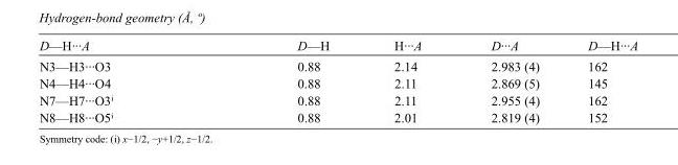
<table><tbody><tr><td>D—H···A</td><td>D—H</td><td>H···A</td><td>D···A</td><td>D—H···A</td></tr><tr><td>N3—H3···O3</td><td>0.88</td><td>2.14</td><td>2.983 (4)</td><td>162</td></tr><tr><td>N4—H4···O4</td><td>0.88</td><td>2.11</td><td>2.869 (5)</td><td>145</td></tr><tr><td>N7—H7···O3<sup>i</sup></td><td>0.88</td><td>2.11</td><td>2.955 (4)</td><td>162</td></tr><tr><td>N8—H8···O5<sup>i</sup></td><td>0.88</td><td>2.01</td><td>2.819 (4)</td><td>152</td></tr></tbody></table>